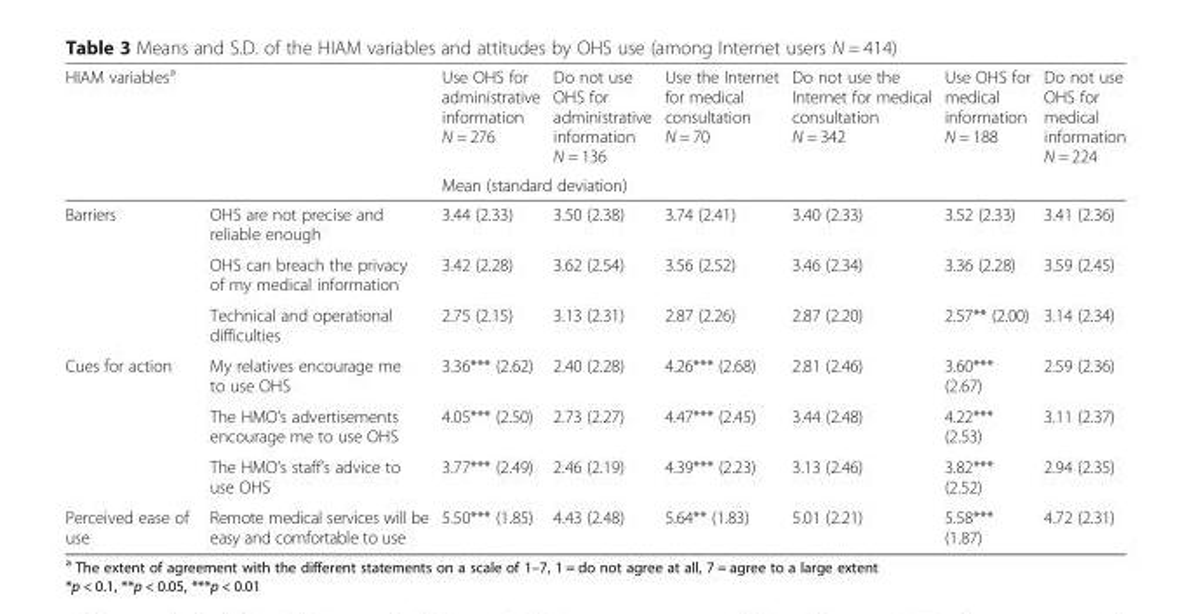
<table><thead><tr><td rowspan="2" colspan="2">HIAM variables<sup>a</sup></td><td>Use OHS for administrative information N = 276</td><td>Do not use OHS for administrative information N = 136</td><td>Use the Internet for medical consultation N = 70</td><td>Do not use the Internet for medical consultation N = 342</td><td>Use OHS for medical information N = 188</td><td>Do not use OHS for medical information N = 224</td></tr><tr><td colspan="6">Mean (standard deviation)</td></tr><tr><td>Barriers</td><td>OHS are not precise and reliable enough</td><td>3.44 (2.33)</td><td>3.50 (2.38)</td><td>3.74 (2.41)</td><td>3.40 (2.33)</td><td>3.52 (2.33)</td><td>3.41 (2.36)</td></tr></thead><tbody><tr><td></td><td>OHS can breach the privacy of my medical information</td><td>3.42 (2.28)</td><td>3.62 (2.54)</td><td>3.56 (2.52)</td><td>3.46 (2.34)</td><td>3.36 (2.28)</td><td>3.59 (2.45)</td></tr><tr><td></td><td>Technical and operational difficulties</td><td>2.75 (2.15)</td><td>3.13 (2.31)</td><td>2.87 (2.26)</td><td>2.87 (2.20)</td><td>2.57** (2.00)</td><td>3.14 (2.34)</td></tr><tr><td rowspan="3">Cues for action</td><td>My relatives encourage me to use OHS</td><td>3.36*** (2.62)</td><td>2.40 (2.28)</td><td>4.26*** (2.68)</td><td>2.81 (2.46)</td><td>3.60*** (2.67)</td><td>2.59 (2.36)</td></tr><tr><td>The HMO’s advertisements encourage me to use OHS</td><td>4.05*** (2.50)</td><td>2.73 (2.27)</td><td>4.47*** (2.45)</td><td>3.44 (2.48)</td><td>4.22*** (2.53)</td><td>3.11 (2.37)</td></tr><tr><td>The HMO’s staff’s advice to use OHS</td><td>3.77*** (2.49)</td><td>2.46 (2.19)</td><td>4.39*** (2.23)</td><td>3.13 (2.46)</td><td>3.82*** (2.52)</td><td>2.94 (2.35)</td></tr><tr><td>Perceived ease of use</td><td>Remote medical services will be easy and comfortable to use</td><td>5.50*** (1.85)</td><td>4.43 (2.48)</td><td>5.64** (1.83)</td><td>5.01 (2.21)</td><td>5.58*** (1.87)</td><td>4.72 (2.31)</td></tr></tbody></table>